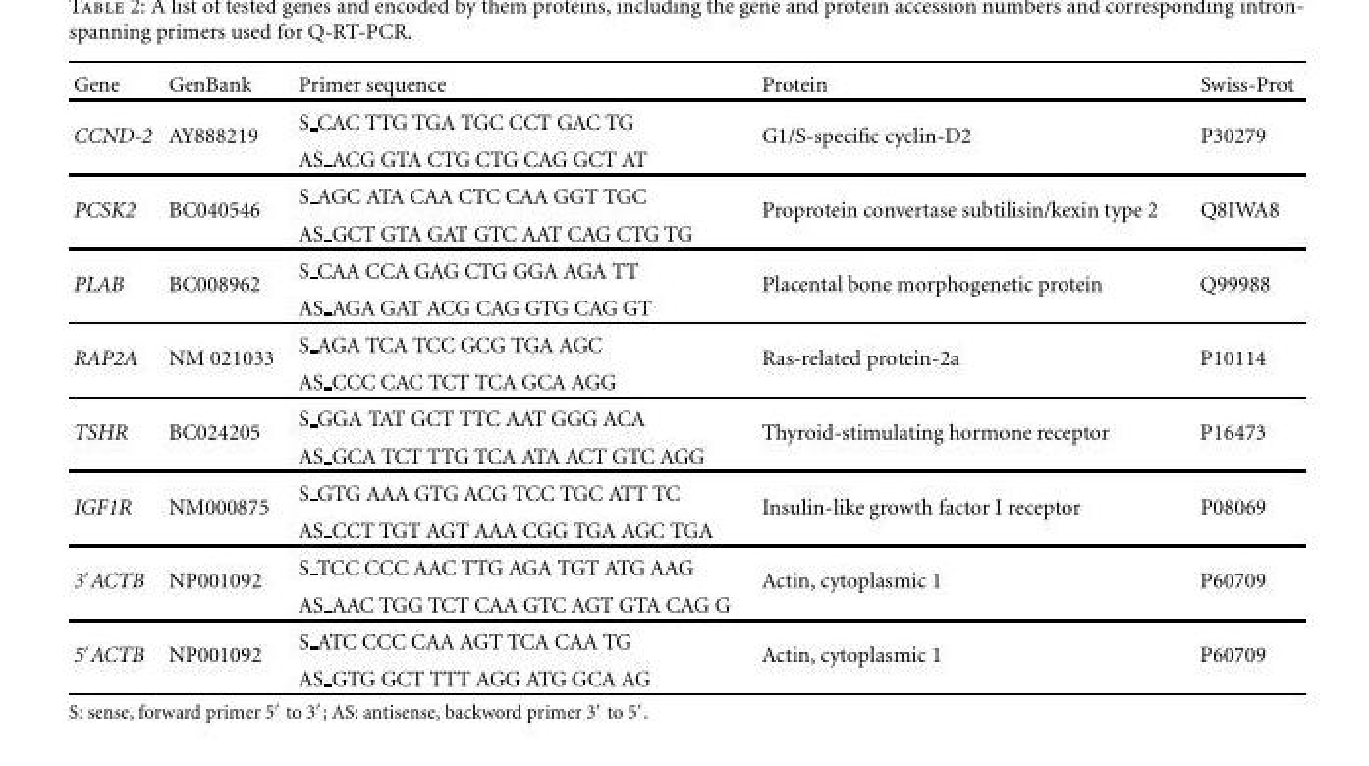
<table><thead><tr><td>Gene</td><td>GenBank</td><td>Primer sequence</td><td>Protein</td><td>Swiss-Prot</td></tr></thead><tbody><tr><td rowspan="2">CCND-2</td><td rowspan="2">AY888219</td><td>S CAC TTG TGA TGC CCT GAC TG</td><td rowspan="2">G1/S-specific cyclin-D2</td><td rowspan="2">P30279</td></tr><tr><td>AS ACG GTA CTG CTG CAG GCT AT</td></tr><tr><td rowspan="2">PCSK2</td><td rowspan="2">BC040546</td><td>S AGC ATA CAA CTC CAA GGT TGC</td><td rowspan="2">Proprotein convertase subtilisin/kexin type 2</td><td rowspan="2">Q8IWA8</td></tr><tr><td>AS GCT GTA GAT GTC AAT CAG CTG TG</td></tr><tr><td rowspan="2">PLAB</td><td rowspan="2">BC008962</td><td>S CAA CCA GAG CTG GGA AGA TT</td><td rowspan="2">Placental bone morphogenetic protein</td><td rowspan="2">Q99988</td></tr><tr><td>AS AGA GAT ACG CAG GTG CAG GT</td></tr><tr><td rowspan="2">RAP2A</td><td rowspan="2">NM 021033</td><td>S AGA TCA TCC GCG TGA AGC</td><td rowspan="2">Ras-related protein-2a</td><td rowspan="2">P10114</td></tr><tr><td>AS CCC CAC TCT TCA GCA AGG</td></tr><tr><td rowspan="2">TSHR</td><td rowspan="2">BC024205</td><td>S GGA TAT GCT TTC AAT GGG ACA</td><td rowspan="2">Thyroid-stimulating hormone receptor</td><td rowspan="2">P16473</td></tr><tr><td>AS GCA TCT TTG TCA ATA ACT GTC AGG</td></tr><tr><td rowspan="2">IGF1R</td><td rowspan="2">NM000875</td><td>S GTG AAA GTG ACG TCC TGC ATT TC</td><td rowspan="2">Insulin-like growth factor I receptor</td><td rowspan="2">P08069</td></tr><tr><td>AS CCT TGT AGT AAA CGG TGA AGC TGA</td></tr><tr><td rowspan="2">3′ACTB</td><td rowspan="2">NP001092</td><td>S TCC CCC AAC TTG AGA TGT ATG AAG</td><td rowspan="2">Actin, cytoplasmic 1</td><td rowspan="2">P60709</td></tr><tr><td>AS AAC TGG TCT CAA GTC AGT GTA CAG G</td></tr><tr><td rowspan="2">5′ACTB</td><td rowspan="2">NP001092</td><td>S ATC CCC CAA AGT TCA CAA TG</td><td rowspan="2">Actin, cytoplasmic 1</td><td rowspan="2">P60709</td></tr><tr><td>AS GTG GCT TTT AGG ATG GCA AG</td></tr></tbody></table>